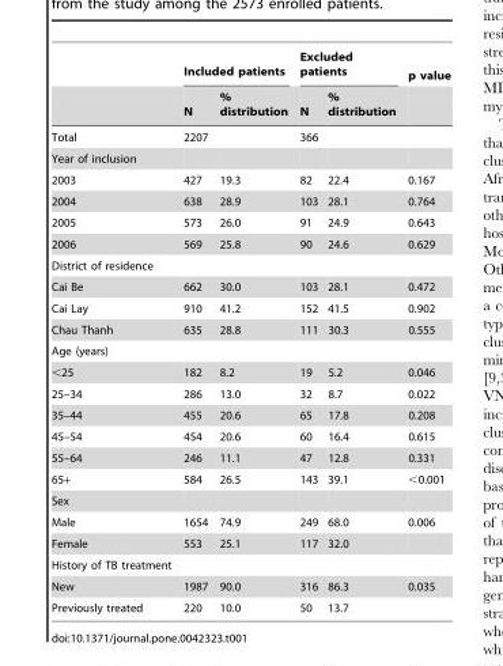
<table><thead><tr><td rowspan="2"></td><td colspan="2">Included patients</td><td colspan="2">Excluded patients</td><td rowspan="2">p value</td></tr><tr><td>N</td><td>% distribution</td><td>N</td><td>% distribution</td></tr></thead><tbody><tr><td>Total</td><td>2207</td><td></td><td>366</td><td></td><td></td></tr><tr><td colspan="6">Year of inclusion</td></tr><tr><td>2003</td><td>427</td><td>19.3</td><td>82</td><td>22.4</td><td>0.167</td></tr><tr><td>2004</td><td>638</td><td>28.9</td><td>103</td><td>28.1</td><td>0.764</td></tr><tr><td>2005</td><td>573</td><td>26.0</td><td>91</td><td>24.9</td><td>0.643</td></tr><tr><td>2006</td><td>569</td><td>25.8</td><td>90</td><td>24.6</td><td>0.629</td></tr><tr><td colspan="6">District of residence</td></tr><tr><td>Cai Be</td><td>662</td><td>30.0</td><td>103</td><td>28.1</td><td>0.472</td></tr><tr><td>Cai Lay</td><td>910</td><td>41.2</td><td>152</td><td>41.5</td><td>0.902</td></tr><tr><td>Chau Thanh</td><td>635</td><td>28.8</td><td>111</td><td>30.3</td><td>0.555</td></tr><tr><td colspan="6">Age (years)</td></tr><tr><td>&lt;25</td><td>182</td><td>8.2</td><td>19</td><td>5.2</td><td>0.046</td></tr><tr><td>25–34</td><td>286</td><td>13.0</td><td>32</td><td>8.7</td><td>0.022</td></tr><tr><td>35–44</td><td>455</td><td>20.6</td><td>65</td><td>17.8</td><td>0.208</td></tr><tr><td>45–54</td><td>454</td><td>20.6</td><td>60</td><td>16.4</td><td>0.615</td></tr><tr><td>55–64</td><td>246</td><td>11.1</td><td>47</td><td>12.8</td><td>0.331</td></tr><tr><td>65+</td><td>584</td><td>26.5</td><td>143</td><td>39.1</td><td>&lt;0.001</td></tr><tr><td colspan="6">Sex</td></tr><tr><td>Male</td><td>1654</td><td>74.9</td><td>249</td><td>68.0</td><td>0.006</td></tr><tr><td>Female</td><td>553</td><td>25.1</td><td>117</td><td>32.0</td><td></td></tr><tr><td colspan="6">History of TB treatment</td></tr><tr><td>New</td><td>1987</td><td>90.0</td><td>316</td><td>86.3</td><td>0.035</td></tr><tr><td>Previously treated</td><td>220</td><td>10.0</td><td>50</td><td>13.7</td><td></td></tr></tbody></table>